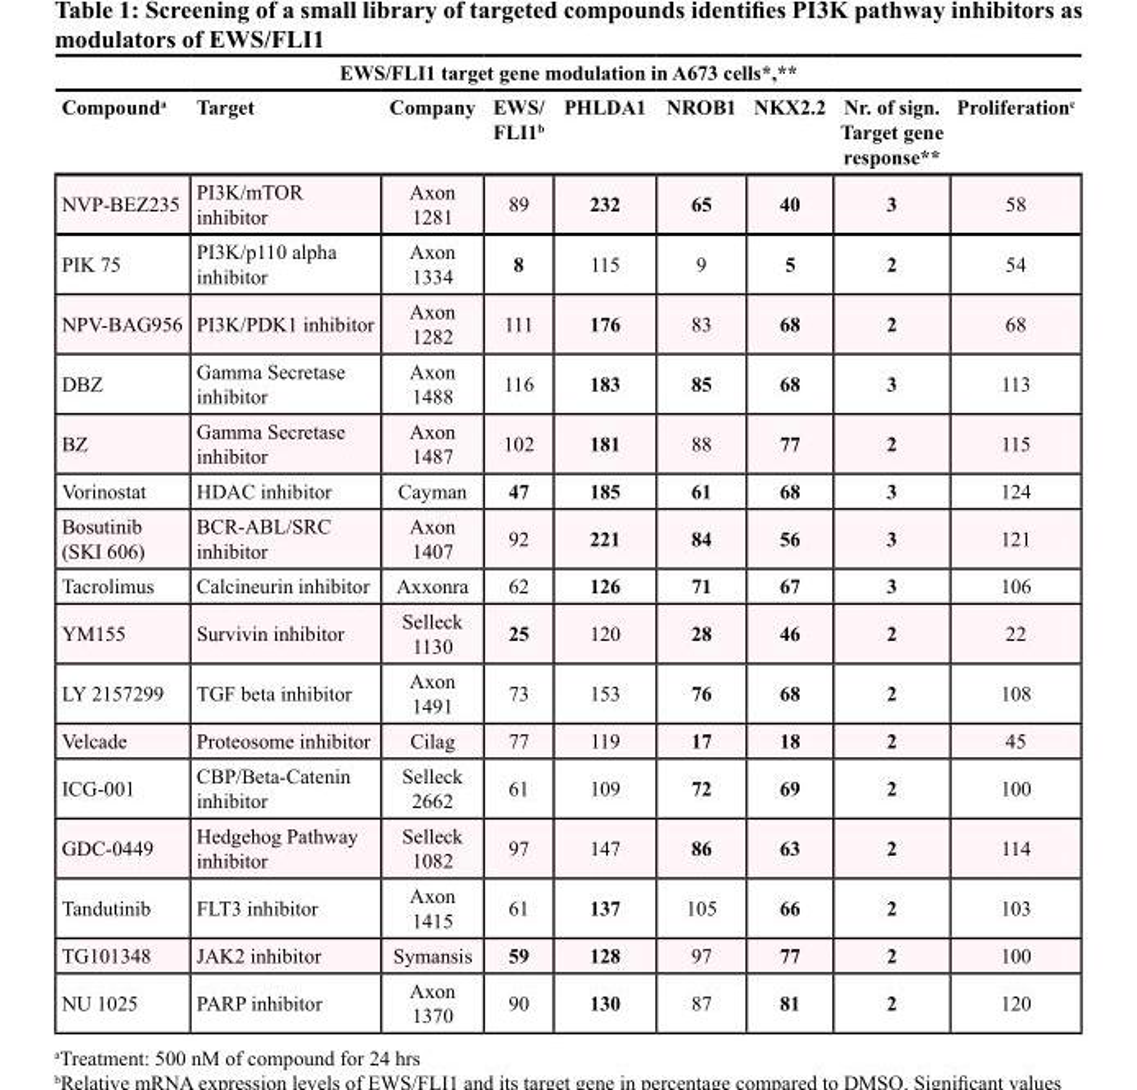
<table><thead><tr><td colspan="9">EWS/FLI1 target gene modulation in A673 cells*,**</td></tr><tr><td>Compound<sup>a</sup></td><td>Target</td><td>Company</td><td>EWS/ FLI1<sup>b</sup></td><td>PHLDA1</td><td>NROB1</td><td>NKX2.2</td><td>Nr. of sign. Target gene response**</td><td>Proliferation<sup>c</sup></td></tr></thead><tbody><tr><td>NVP-BEZ235</td><td>PI3K/mTOR inhibitor</td><td>Axon 1281</td><td>89</td><td>232</td><td>65</td><td>40</td><td>3</td><td>58</td></tr><tr><td>PIK 75</td><td>PI3K/p110 alpha inhibitor</td><td>Axon 1334</td><td>8</td><td>115</td><td>9</td><td>5</td><td>2</td><td>54</td></tr><tr><td>NPV-BAG956</td><td>PI3K/PDK1 inhibitor</td><td>Axon 1282</td><td>111</td><td>176</td><td>83</td><td>68</td><td>2</td><td>68</td></tr><tr><td>DBZ</td><td>Gamma Secretase inhibitor</td><td>Axon 1488</td><td>116</td><td>183</td><td>85</td><td>68</td><td>3</td><td>113</td></tr><tr><td>BZ</td><td>Gamma Secretase inhibitor</td><td>Axon 1487</td><td>102</td><td>181</td><td>88</td><td>77</td><td>2</td><td>115</td></tr><tr><td>Vorinostat</td><td>HDAC inhibitor</td><td>Cayman</td><td>47</td><td>185</td><td>61</td><td>68</td><td>3</td><td>124</td></tr><tr><td>Bosutinib (SKI 606)</td><td>BCR-ABL/SRC inhibitor</td><td>Axon 1407</td><td>92</td><td>221</td><td>84</td><td>56</td><td>3</td><td>121</td></tr><tr><td>Tacrolimus</td><td>Calcineurin inhibitor</td><td>Axxonra</td><td>62</td><td>126</td><td>71</td><td>67</td><td>3</td><td>106</td></tr><tr><td>YM155</td><td>Survivin inhibitor</td><td>Selleck 1130</td><td>25</td><td>120</td><td>28</td><td>46</td><td>2</td><td>22</td></tr><tr><td>LY 2157299</td><td>TGF beta inhibitor</td><td>Axon 1491</td><td>73</td><td>153</td><td>76</td><td>68</td><td>2</td><td>108</td></tr><tr><td>Velcade</td><td>Proteosome inhibitor</td><td>Cilag</td><td>77</td><td>119</td><td>17</td><td>18</td><td>2</td><td>45</td></tr><tr><td>ICG-001</td><td>CBP/Beta-Catenin inhibitor</td><td>Selleck 2662</td><td>61</td><td>109</td><td>72</td><td>69</td><td>2</td><td>100</td></tr><tr><td>GDC-0449</td><td>Hedgehog Pathway inhibitor</td><td>Selleck 1082</td><td>97</td><td>147</td><td>86</td><td>63</td><td>2</td><td>114</td></tr><tr><td>Tandutinib</td><td>FLT3 inhibitor</td><td>Axon 1415</td><td>61</td><td>137</td><td>105</td><td>66</td><td>2</td><td>103</td></tr><tr><td>TG101348</td><td>JAK2 inhibitor</td><td>Symansis</td><td>59</td><td>128</td><td>97</td><td>77</td><td>2</td><td>100</td></tr><tr><td>NU 1025</td><td>PARP inhibitor</td><td>Axon 1370</td><td>90</td><td>130</td><td>87</td><td>81</td><td>2</td><td>120</td></tr></tbody></table>